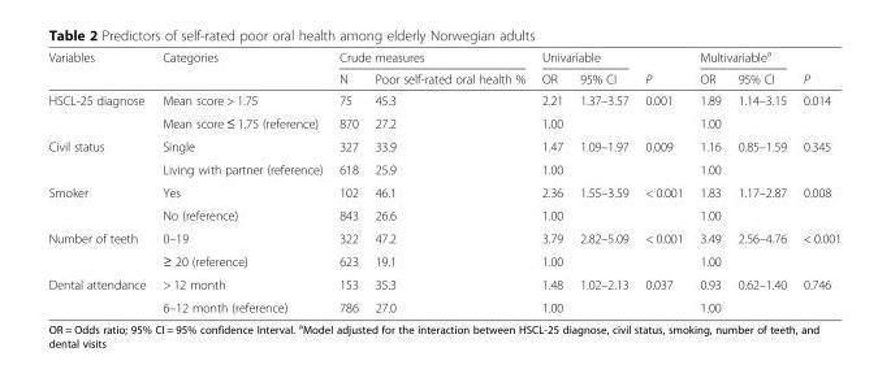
<table><thead><tr><td rowspan="2">Variables</td><td rowspan="2">Categories</td><td colspan="2">Crude measures</td><td colspan="2">Univariable</td><td rowspan="2">P</td><td colspan="2">Multivariable<sup>a</sup></td><td rowspan="2">P</td></tr><tr><td>N</td><td>Poor self-rated oral health %</td><td>OR</td><td>95% CI</td><td>OR</td><td>95% CI</td></tr></thead><tbody><tr><td rowspan="2">HSCL-25 diagnose</td><td>Mean score &gt; 1.75</td><td>75</td><td>45.3</td><td>2.21</td><td>1.37–3.57</td><td>0.001</td><td>1.89</td><td>1.14–3.15</td><td>0.014</td></tr><tr><td>Mean score ≤ 1.75 (reference)</td><td>870</td><td>27.2</td><td>1.00</td><td></td><td></td><td>1.00</td><td></td><td></td></tr><tr><td rowspan="2">Civil status</td><td>Single</td><td>327</td><td>33.9</td><td>1.47</td><td>1.09–1.97</td><td>0.009</td><td>1.16</td><td>0.85–1.59</td><td>0.345</td></tr><tr><td>Living with partner (reference)</td><td>618</td><td>25.9</td><td>1.00</td><td></td><td></td><td>1.00</td><td></td><td></td></tr><tr><td rowspan="2">Smoker</td><td>Yes</td><td>102</td><td>46.1</td><td>2.36</td><td>1.55–3.59</td><td>&lt; 0.001</td><td>1.83</td><td>1.17–2.87</td><td>0.008</td></tr><tr><td>No (reference)</td><td>843</td><td>26.6</td><td>1.00</td><td></td><td></td><td>1.00</td><td></td><td></td></tr><tr><td rowspan="2">Number of teeth</td><td>0–19</td><td>322</td><td>47.2</td><td>3.79</td><td>2.82–5.09</td><td>&lt; 0.001</td><td>3.49</td><td>2.56–4.76</td><td>&lt; 0.001</td></tr><tr><td>≥ 20 (reference)</td><td>623</td><td>19.1</td><td>1.00</td><td></td><td></td><td>1.00</td><td></td><td></td></tr><tr><td rowspan="2">Dental attendance</td><td>&gt; 12 month</td><td>153</td><td>35.3</td><td>1.48</td><td>1.02–2.13</td><td>0.037</td><td>0.93</td><td>0.62–1.40</td><td>0.746</td></tr><tr><td>6–12 month (reference)</td><td>786</td><td>27.0</td><td>1.00</td><td></td><td></td><td>1.00</td><td></td><td></td></tr></tbody></table>